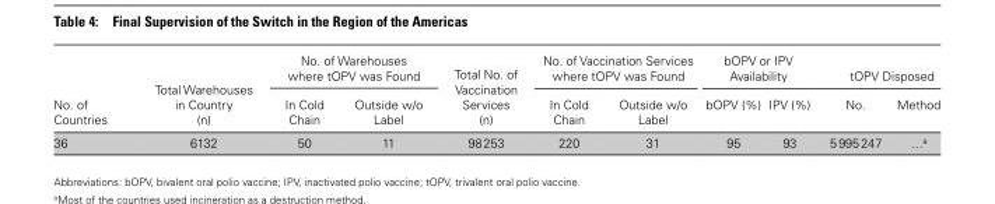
<table><thead><tr><td rowspan="2">No. of Countries</td><td rowspan="2">Total Warehouses in Country (n)</td><td colspan="2">No. of Warehouses where tOPV was Found</td><td rowspan="2">Total No. of Vaccination Services (n)</td><td colspan="2">No. of Vaccination Services where tOPV was Found</td><td colspan="2">bOPV or IPV Availability</td><td colspan="2">tOPV Disposed</td></tr><tr><td>In Cold Chain</td><td>Outside w/o Label</td><td>In Cold Chain</td><td>Outside w/o Label</td><td>bOPV (%)</td><td>IPV (%)</td><td>No.</td><td>Method</td></tr></thead><tbody><tr><td>36</td><td>6132</td><td>50</td><td>11</td><td>98 253</td><td>220</td><td>31</td><td>95</td><td>93</td><td>5 995 247</td><td>…<sup>a</sup></td></tr></tbody></table>